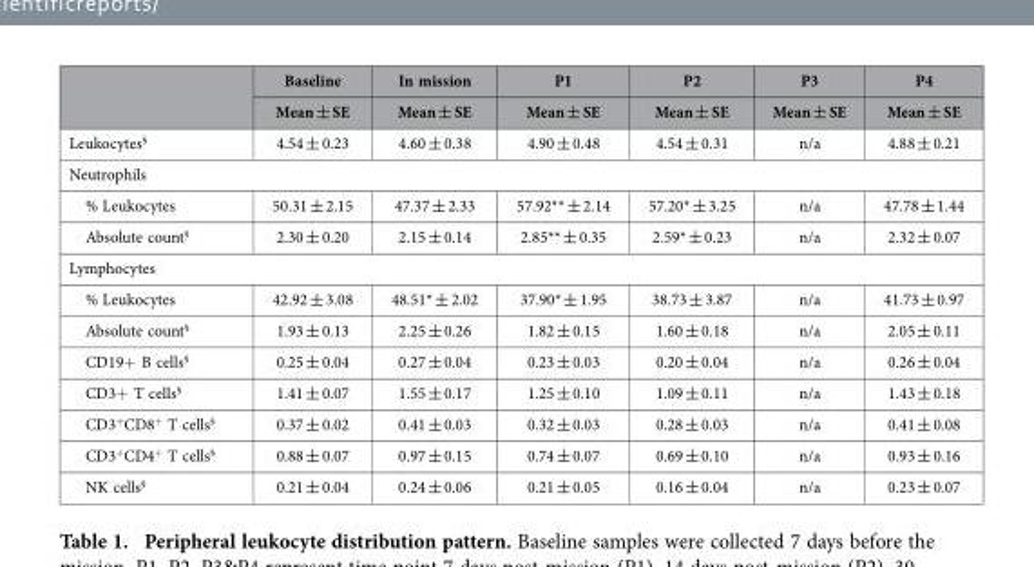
<table><thead><tr><td rowspan="2"></td><td rowspan="2">Baseline Mean ± SE</td><td rowspan="2">In mission Mean ± SE</td><td rowspan="2">P1 Mean ± SE</td><td rowspan="2">P2 Mean ± SE</td><td rowspan="2">P3 Mean ± SE</td><td rowspan="2">P4 Mean ± SE</td></tr><tr></tr></thead><tbody><tr><td>Leukocytes§</td><td>4.54 ± 0.23</td><td>4.60 ± 0.38</td><td>4.90 ± 0.48</td><td>4.54 ± 0.31</td><td>n/a</td><td>4.88 ± 0.21</td></tr><tr><td colspan="7">Neutrophils</td></tr><tr><td>% Leukocytes</td><td>50.31 ± 2.15</td><td>47.37 ± 2.33</td><td>57.92** ± 2.14</td><td>57.20* ± 3.25</td><td>n/a</td><td>47.78 ± 1.44</td></tr><tr><td>Absolute count§</td><td>2.30 ± 0.20</td><td>2.15 ± 0.14</td><td>2.85** ± 0.35</td><td>2.59* ± 0.23</td><td>n/a</td><td>2.32 ± 0.07</td></tr><tr><td colspan="7">Lymphocytes</td></tr><tr><td>% Leukocytes</td><td>42.92 ± 3.08</td><td>48.51* ± 2.02</td><td>37.90* ± 1.95</td><td>38.73 ± 3.87</td><td>n/a</td><td>41.73 ± 0.97</td></tr><tr><td>Absolute count§</td><td>1.93 ± 0.13</td><td>2.25 ± 0.26</td><td>1.82 ± 0.15</td><td>1.60 ± 0.18</td><td>n/a</td><td>2.05 ± 0.11</td></tr><tr><td>CD19+ B cells§</td><td>0.25 ± 0.04</td><td>0.27 ± 0.04</td><td>0.23 ± 0.03</td><td>0.20 ± 0.04</td><td>n/a</td><td>0.26 ± 0.04</td></tr><tr><td>CD3+ T cells§</td><td>1.41 ± 0.07</td><td>1.55 ± 0.17</td><td>1.25 ± 0.10</td><td>1.09 ± 0.11</td><td>n/a</td><td>1.43 ± 0.18</td></tr><tr><td>CD3<sup>+</sup>CD8<sup>+</sup> T cells§</td><td>0.37 ± 0.02</td><td>0.41 ± 0.03</td><td>0.32 ± 0.03</td><td>0.28 ± 0.03</td><td>n/a</td><td>0.41 ± 0.08</td></tr><tr><td>CD3<sup>+</sup>CD4<sup>+</sup> T cells§</td><td>0.88 ± 0.07</td><td>0.97 ± 0.15</td><td>0.74 ± 0.07</td><td>0.69 ± 0.10</td><td>n/a</td><td>0.93 ± 0.16</td></tr><tr><td>NK cells§</td><td>0.21 ± 0.04</td><td>0.24 ± 0.06</td><td>0.21 ± 0.05</td><td>0.16 ± 0.04</td><td>n/a</td><td>0.23 ± 0.07</td></tr></tbody></table>